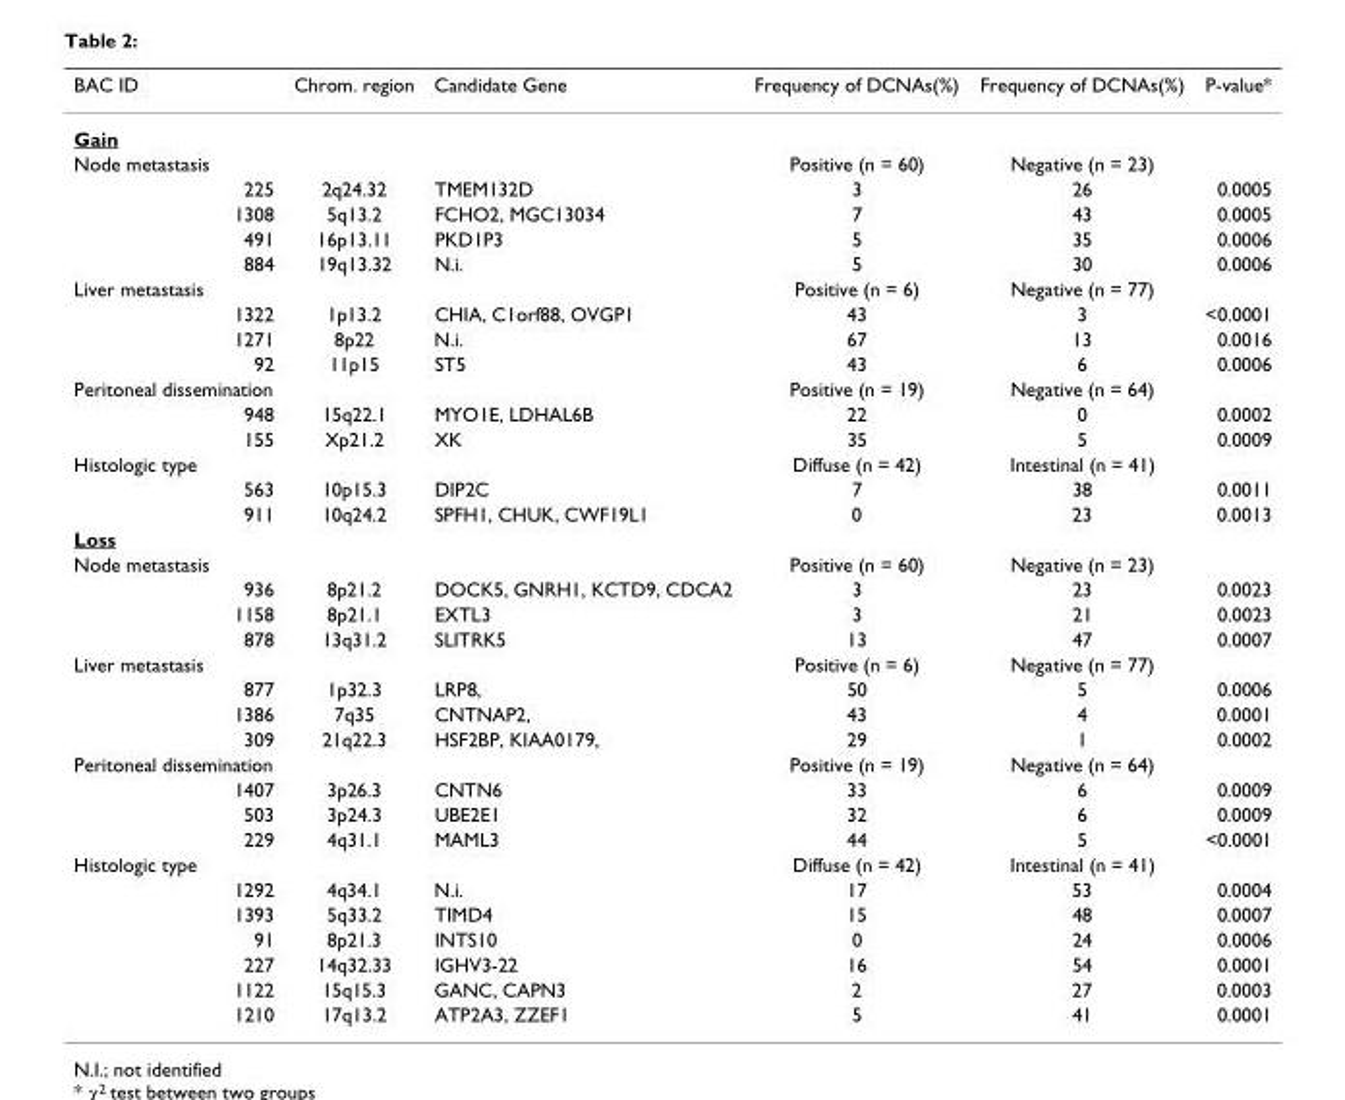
<table><thead><tr><td>BAC ID</td><td>Chrom. region</td><td>Candidate Gene</td><td>Frequency of DCNAs(%)</td><td>Frequency of DCNAs(%)</td><td>P-value*</td></tr></thead><tbody><tr><td colspan="6">Gain</td></tr><tr><td>Node metastasis</td><td></td><td></td><td>Positive (n = 60)</td><td>Negative (n = 23)</td><td></td></tr><tr><td>225</td><td>2q24.32</td><td>TMEM132D</td><td>3</td><td>26</td><td>0.0005</td></tr><tr><td>1308</td><td>5q13.2</td><td>FCHO2, MGC13034</td><td>7</td><td>43</td><td>0.0005</td></tr><tr><td>491</td><td>16p13.11</td><td>PKD1P3</td><td>5</td><td>35</td><td>0.0006</td></tr><tr><td>884</td><td>19q13.32</td><td>N.i.</td><td>5</td><td>30</td><td>0.0006</td></tr><tr><td>Liver metastasis</td><td></td><td></td><td>Positive (n = 6)</td><td>Negative (n = 77)</td><td></td></tr><tr><td>1322</td><td>1p13.2</td><td>CHIA, C1orf88, OVGP1</td><td>43</td><td>3</td><td>&lt;0.0001</td></tr><tr><td>1271</td><td>8p22</td><td>N.i.</td><td>67</td><td>13</td><td>0.0016</td></tr><tr><td>92</td><td>11p15</td><td>ST5</td><td>43</td><td>6</td><td>0.0006</td></tr><tr><td>Peritoneal dissemination</td><td></td><td></td><td>Positive (n = 19)</td><td>Negative (n = 64)</td><td></td></tr><tr><td>948</td><td>15q22.1</td><td>MYO1E, LDHAL6B</td><td>22</td><td>0</td><td>0.0002</td></tr><tr><td>155</td><td>Xp21.2</td><td>XK</td><td>35</td><td>5</td><td>0.0009</td></tr><tr><td>Histologic type</td><td></td><td></td><td>Diffuse (n = 42)</td><td>Intestinal (n = 41)</td><td></td></tr><tr><td>563</td><td>10p15.3</td><td>DIP2C</td><td>7</td><td>38</td><td>0.0011</td></tr><tr><td>911</td><td>10q24.2</td><td>SPFH1, CHUK, CWF19L1</td><td>0</td><td>23</td><td>0.0013</td></tr><tr><td colspan="6">Loss</td></tr><tr><td>Node metastasis</td><td></td><td></td><td>Positive (n = 60)</td><td>Negative (n = 23)</td><td></td></tr><tr><td>936</td><td>8p21.2</td><td>DOCK5, GNRH1, KCTD9, CDCA2</td><td>3</td><td>23</td><td>0.0023</td></tr><tr><td>1158</td><td>8p21.1</td><td>EXTL3</td><td>3</td><td>21</td><td>0.0023</td></tr><tr><td>878</td><td>13q31.2</td><td>SLITRK5</td><td>13</td><td>47</td><td>0.0007</td></tr><tr><td>Liver metastasis</td><td></td><td></td><td>Positive (n = 6)</td><td>Negative (n = 77)</td><td></td></tr><tr><td>877</td><td>1p32.3</td><td>LRP8,</td><td>50</td><td>5</td><td>0.0006</td></tr><tr><td>1386</td><td>7q35</td><td>CNTNAP2,</td><td>43</td><td>4</td><td>0.0001</td></tr><tr><td>309</td><td>21q22.3</td><td>HSF2BP, KIAA0179,</td><td>29</td><td>1</td><td>0.0002</td></tr><tr><td>Peritoneal dissemination</td><td></td><td></td><td>Positive (n = 19)</td><td>Negative (n = 64)</td><td></td></tr><tr><td>1407</td><td>3p26.3</td><td>CNTN6</td><td>33</td><td>6</td><td>0.0009</td></tr><tr><td>503</td><td>3p24.3</td><td>UBE2E1</td><td>32</td><td>6</td><td>0.0009</td></tr><tr><td>229</td><td>4q31.1</td><td>MAML3</td><td>44</td><td>5</td><td>&lt;0.0001</td></tr><tr><td>Histologic type</td><td></td><td></td><td>Diffuse (n = 42)</td><td>Intestinal (n = 41)</td><td></td></tr><tr><td>1292</td><td>4q34.1</td><td>N.i.</td><td>17</td><td>53</td><td>0.0004</td></tr><tr><td>1393</td><td>5q33.2</td><td>TIMD4</td><td>15</td><td>48</td><td>0.0007</td></tr><tr><td>91</td><td>8p21.3</td><td>INTS10</td><td>0</td><td>24</td><td>0.0006</td></tr><tr><td>227</td><td>14q32.33</td><td>IGHV3-22</td><td>16</td><td>54</td><td>0.0001</td></tr><tr><td>1122</td><td>15q15.3</td><td>GANC, CAPN3</td><td>2</td><td>27</td><td>0.0003</td></tr><tr><td>1210</td><td>17q13.2</td><td>ATP2A3, ZZEF1</td><td>5</td><td>41</td><td>0.0001</td></tr></tbody></table>